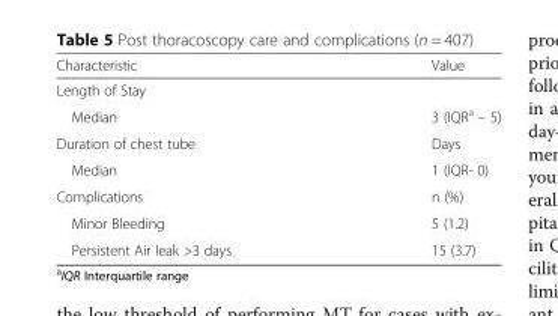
<table><thead><tr><td>Characteristic</td><td>Value</td></tr></thead><tbody><tr><td colspan="2">Length of Stay</td></tr><tr><td>Median</td><td>3 (IQR<sup>a</sup> – 5)</td></tr><tr><td>Duration of chest tube</td><td>Days</td></tr><tr><td>Median</td><td>1 (IQR- 0)</td></tr><tr><td>Complications</td><td>n (%)</td></tr><tr><td>Minor Bleeding</td><td>5 (1.2)</td></tr><tr><td>Persistent Air leak &gt;3 days</td><td>15 (3.7)</td></tr></tbody></table>